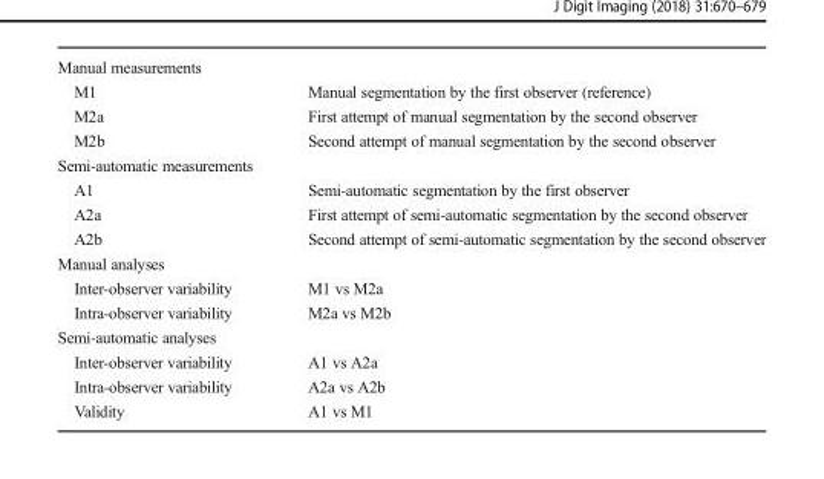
<table><tbody><tr><td colspan="2">Manual measurements</td></tr><tr><td>M1</td><td>Manual segmentation by the first observer (reference)</td></tr><tr><td>M2a</td><td>First attempt of manual segmentation by the second observer</td></tr><tr><td>M2b</td><td>Second attempt of manual segmentation by the second observer</td></tr><tr><td colspan="2">Semi-automatic measurements</td></tr><tr><td>A1</td><td>Semi-automatic segmentation by the first observer</td></tr><tr><td>A2a</td><td>First attempt of semi-automatic segmentation by the second observer</td></tr><tr><td>A2b</td><td>Second attempt of semi-automatic segmentation by the second observer</td></tr><tr><td colspan="2">Manual analyses</td></tr><tr><td>Inter-observer variability</td><td>M1 vs M2a</td></tr><tr><td>Intra-observer variability</td><td>M2a vs M2b</td></tr><tr><td colspan="2">Semi-automatic analyses</td></tr><tr><td>Inter-observer variability</td><td>A1 vs A2a</td></tr><tr><td>Intra-observer variability</td><td>A2a vs A2b</td></tr><tr><td>Validity</td><td>A1 vs M1</td></tr></tbody></table>